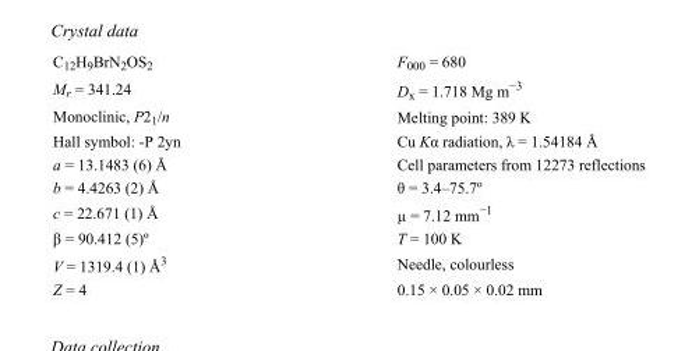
<table><tbody><tr><td>C<sub>12</sub>H<sub>9</sub>BrN<sub>2</sub>OS<sub>2</sub></td><td>F000 = 680</td></tr><tr><td>M<sub>r</sub> = 341.24</td><td>D<sub>x</sub> = 1.718 Mg m<sup>−3</sup></td></tr><tr><td>Monoclinic, P2<sub>1</sub>/n</td><td>Melting point: 389 K</td></tr><tr><td>Hall symbol: -P 2yn</td><td>Cu Kα radiation, λ = 1.54184 Å</td></tr><tr><td>a = 13.1483 (6) Å</td><td>Cell parameters from 12273 reflections</td></tr><tr><td>b = 4.4263 (2) Å</td><td>θ = 3.4–75.7º</td></tr><tr><td>c = 22.671 (1) Å</td><td>µ = 7.12 mm<sup>−1</sup></td></tr><tr><td>β = 90.412 (5)º</td><td>T = 100 K</td></tr><tr><td>V = 1319.4 (1) Å<sup>3</sup></td><td>Needle, colourless</td></tr><tr><td>Z = 4</td><td>0.15 × 0.05 × 0.02 mm</td></tr></tbody></table>